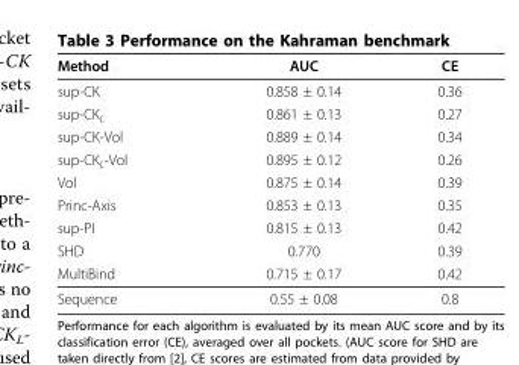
<table><thead><tr><td>Method</td><td>AUC</td><td>CE</td></tr></thead><tbody><tr><td>sup-CK</td><td>0.858 ± 0.14</td><td>0.36</td></tr><tr><td>sup-CK<sub>L</sub></td><td>0.861 ± 0.13</td><td>0.27</td></tr><tr><td>sup-CK-Vol</td><td>0.889 ± 0.14</td><td>0.34</td></tr><tr><td>sup-CK<sub>L</sub>-Vol</td><td>0.895 ± 0.12</td><td>0.26</td></tr><tr><td>Vol</td><td>0.875 ± 0.14</td><td>0.39</td></tr><tr><td>Princ-Axis</td><td>0.853 ± 0.13</td><td>0.35</td></tr><tr><td>sup-PI</td><td>0.815 ± 0.13</td><td>0.42</td></tr><tr><td>SHD</td><td>0.770</td><td>0.39</td></tr><tr><td>MultiBind</td><td>0.715 ± 0.17</td><td>0.42</td></tr><tr><td>Sequence</td><td>0.55 ± 0.08</td><td>0.8</td></tr></tbody></table>